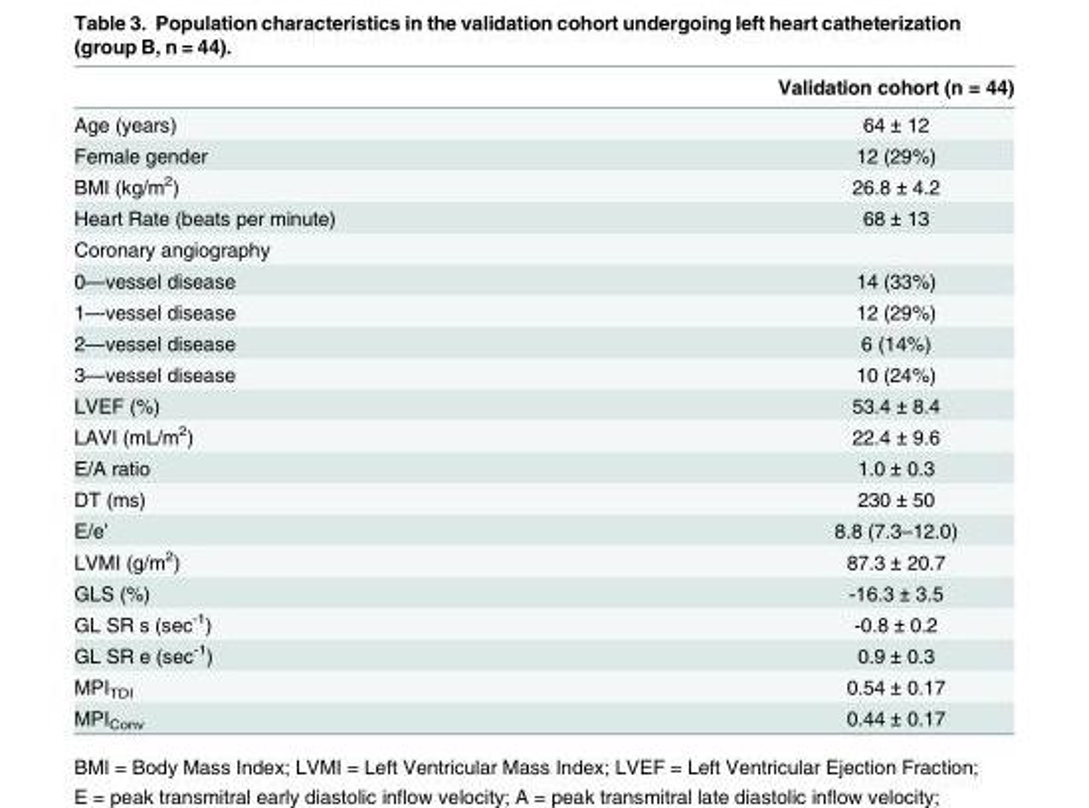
<table><thead><tr><td></td><td>Validation cohort (n = 44)</td></tr></thead><tbody><tr><td>Age (years)</td><td>64 ± 12</td></tr><tr><td>Female gender</td><td>12 (29%)</td></tr><tr><td>BMI (kg/m<sup>2</sup>)</td><td>26.8 ± 4.2</td></tr><tr><td>Heart Rate (beats per minute)</td><td>68 ± 13</td></tr><tr><td colspan="2">Coronary angiography</td></tr><tr><td>0—vessel disease</td><td>14 (33%)</td></tr><tr><td>1—vessel disease</td><td>12 (29%)</td></tr><tr><td>2—vessel disease</td><td>6 (14%)</td></tr><tr><td>3—vessel disease</td><td>10 (24%)</td></tr><tr><td>LVEF (%)</td><td>53.4 ± 8.4</td></tr><tr><td>LAVI (mL/m<sup>2</sup>)</td><td>22.4 ± 9.6</td></tr><tr><td>E/A ratio</td><td>1.0 ± 0.3</td></tr><tr><td>DT (ms)</td><td>230 ± 50</td></tr><tr><td>E/e’</td><td>8.8 (7.3–12.0)</td></tr><tr><td>LVMI (g/m<sup>2</sup>)</td><td>87.3 ± 20.7</td></tr><tr><td>GLS (%)</td><td>-16.3 ± 3.5</td></tr><tr><td>GL SR s (sec<sup>-1</sup>)</td><td>-0.8 ± 0.2</td></tr><tr><td>GL SR e (sec<sup>-1</sup>)</td><td>0.9 ± 0.3</td></tr><tr><td>MPI<sub>TDI</sub></td><td>0.54 ± 0.17</td></tr><tr><td>MPI<sub>Conv</sub></td><td>0.44 ± 0.17</td></tr></tbody></table>